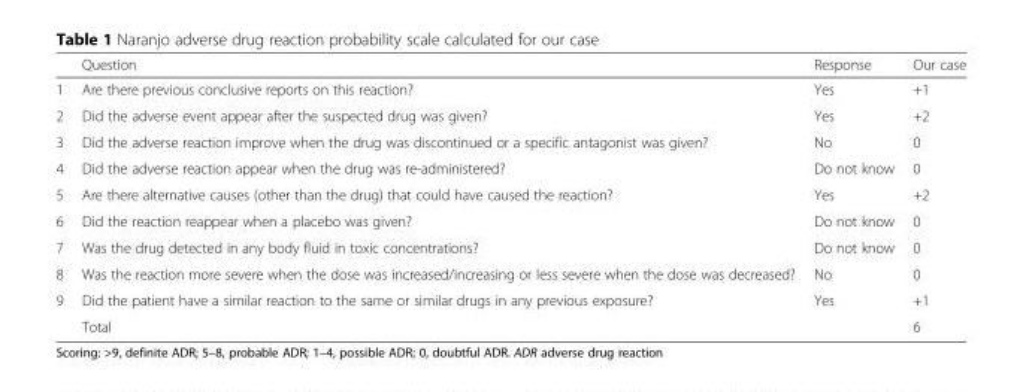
<table><thead><tr><td></td><td>Question</td><td>Response</td><td>Our case</td></tr></thead><tbody><tr><td>1</td><td>Are there previous conclusive reports on this reaction?</td><td>Yes</td><td>+1</td></tr><tr><td>2</td><td>Did the adverse event appear after the suspected drug was given?</td><td>Yes</td><td>+2</td></tr><tr><td>3</td><td>Did the adverse reaction improve when the drug was discontinued or a specific antagonist was given?</td><td>No</td><td>0</td></tr><tr><td>4</td><td>Did the adverse reaction appear when the drug was re-administered?</td><td>Do not know</td><td>0</td></tr><tr><td>5</td><td>Are there alternative causes (other than the drug) that could have caused the reaction?</td><td>Yes</td><td>+2</td></tr><tr><td>6</td><td>Did the reaction reappear when a placebo was given?</td><td>Do not know</td><td>0</td></tr><tr><td>7</td><td>Was the drug detected in any body fluid in toxic concentrations?</td><td>Do not know</td><td>0</td></tr><tr><td>8</td><td>Was the reaction more severe when the dose was increased/increasing or less severe when the dose was decreased?</td><td>No</td><td>0</td></tr><tr><td rowspan="2">9</td><td>Did the patient have a similar reaction to the same or similar drugs in any previous exposure?</td><td>Yes</td><td>+1</td></tr><tr><td>Total</td><td></td><td>6</td></tr></tbody></table>